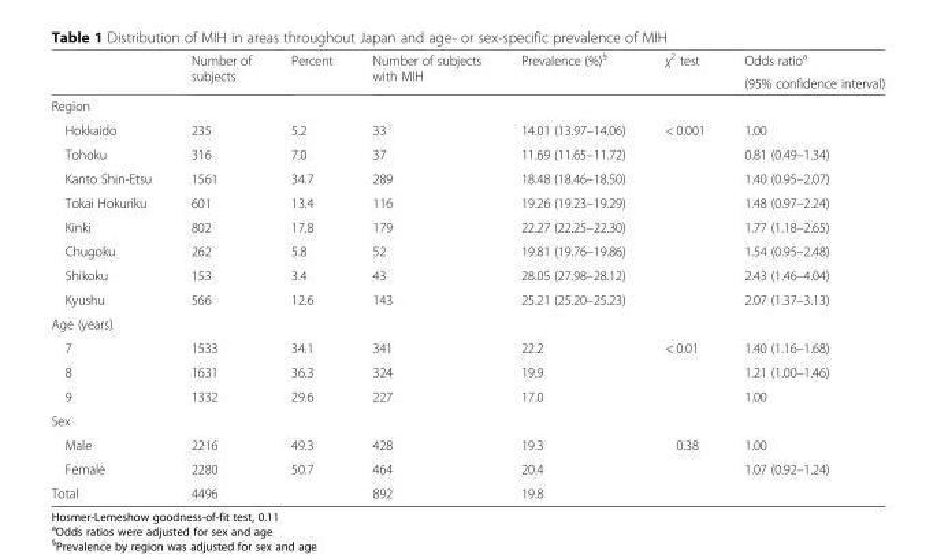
<table><thead><tr><td rowspan="2"></td><td rowspan="2">Number of subjects</td><td rowspan="2">Percent</td><td rowspan="2">Number of subjects with MIH</td><td rowspan="2">Prevalence (%)<sup>§</sup></td><td rowspan="2">χ<sup>2</sup> test</td><td rowspan="2">Odds ratio<sup>a</sup> (95% confidence interval)</td></tr><tr></tr></thead><tbody><tr><td colspan="7">Region</td></tr><tr><td>Hokkaido</td><td>235</td><td>5.2</td><td>33</td><td>14.01 (13.97–14.06)</td><td rowspan="8">&lt; 0.001</td><td>1.00</td></tr><tr><td>Tohoku</td><td>316</td><td>7.0</td><td>37</td><td>11.69 (11.65–11.72)</td><td>0.81 (0.49–1.34)</td></tr><tr><td>Kanto Shin-Etsu</td><td>1561</td><td>34.7</td><td>289</td><td>18.48 (18.46–18.50)</td><td>1.40 (0.95–2.07)</td></tr><tr><td>Tokai Hokuriku</td><td>601</td><td>13.4</td><td>116</td><td>19.26 (19.23–19.29)</td><td>1.48 (0.97–2.24)</td></tr><tr><td>Kinki</td><td>802</td><td>17.8</td><td>179</td><td>22.27 (22.25–22.30)</td><td>1.77 (1.18–2.65)</td></tr><tr><td>Chugoku</td><td>262</td><td>5.8</td><td>52</td><td>19.81 (19.76–19.86)</td><td>1.54 (0.95–2.48)</td></tr><tr><td>Shikoku</td><td>153</td><td>3.4</td><td>43</td><td>28.05 (27.98–28.12)</td><td>2.43 (1.46–4.04)</td></tr><tr><td>Kyushu</td><td>566</td><td>12.6</td><td>143</td><td>25.21 (25.20–25.23)</td><td>2.07 (1.37–3.13)</td></tr><tr><td colspan="7">Age (years)</td></tr><tr><td>7</td><td>1533</td><td>34.1</td><td>341</td><td>22.2</td><td rowspan="3">&lt; 0.01</td><td>1.40 (1.16–1.68)</td></tr><tr><td>8</td><td>1631</td><td>36.3</td><td>324</td><td>19.9</td><td>1.21 (1.00–1.46)</td></tr><tr><td>9</td><td>1332</td><td>29.6</td><td>227</td><td>17.0</td><td>1.00</td></tr><tr><td colspan="7">Sex</td></tr><tr><td>Male</td><td>2216</td><td>49.3</td><td>428</td><td>19.3</td><td rowspan="2">0.38</td><td>1.00</td></tr><tr><td>Female</td><td>2280</td><td>50.7</td><td>464</td><td>20.4</td><td>1.07 (0.92–1.24)</td></tr><tr><td>Total</td><td>4496</td><td></td><td>892</td><td>19.8</td><td></td><td></td></tr></tbody></table>